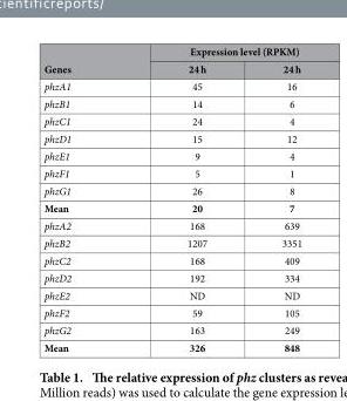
<table><thead><tr><td rowspan="2">Genes</td><td colspan="2">Expression level (RPKM)</td></tr><tr><td>24 h</td><td>24 h</td></tr></thead><tbody><tr><td>phzA1</td><td>45</td><td>16</td></tr><tr><td>phzB1</td><td>14</td><td>6</td></tr><tr><td>phzC1</td><td>24</td><td>4</td></tr><tr><td>phzD1</td><td>15</td><td>12</td></tr><tr><td>phzE1</td><td>9</td><td>4</td></tr><tr><td>phzF1</td><td>5</td><td>1</td></tr><tr><td>phzG1</td><td>26</td><td>8</td></tr><tr><td>Mean</td><td>20</td><td>7</td></tr><tr><td>phzA2</td><td>168</td><td>639</td></tr><tr><td>phzB2</td><td>1207</td><td>3351</td></tr><tr><td>phzC2</td><td>168</td><td>409</td></tr><tr><td>phzD2</td><td>192</td><td>334</td></tr><tr><td>phzE2</td><td>ND</td><td>ND</td></tr><tr><td>phzF2</td><td>59</td><td>105</td></tr><tr><td>phzG2</td><td>163</td><td>249</td></tr><tr><td>Mean</td><td>326</td><td>848</td></tr></tbody></table>